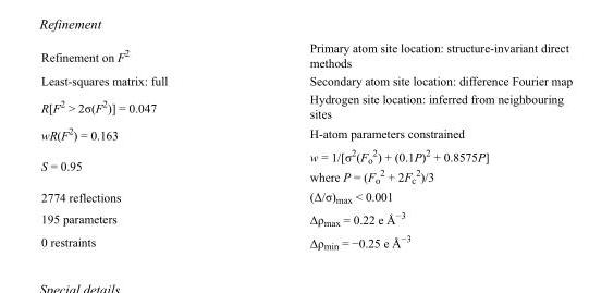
<table><tbody><tr><td>Refinement on F<sup>2</sup></td><td>Primary atom site location: structure-invariant direct methods</td></tr><tr><td>Least-squares matrix: full</td><td>Secondary atom site location: difference Fourier map</td></tr><tr><td>R[F<sup>2</sup> &gt; 2σ(F<sup>2</sup>)] = 0.047</td><td>Hydrogen site location: inferred from neighbouring sites</td></tr><tr><td>wR(F<sup>2</sup>) = 0.163</td><td>H-atom parameters constrained</td></tr><tr><td>S = 0.95</td><td>w = 1/[σ<sup>2</sup>(F<sub>o</sub> <sup>2</sup>) + (0.1P)<sup>2</sup> + 0.8575P] where P = (F<sub>o</sub> <sup>2</sup> + 2F<sub>c</sub> <sup>2</sup>)/3</td></tr><tr><td>2774 reflections</td><td>(Δ/σ)<sub>max</sub> &lt; 0.001</td></tr><tr><td>195 parameters</td><td>Δρ<sub>max</sub> = 0.22 e Å<sup>−3</sup></td></tr><tr><td>0 restraints</td><td>Δρ<sub>min</sub> = −0.25 e Å<sup>−3</sup></td></tr></tbody></table>